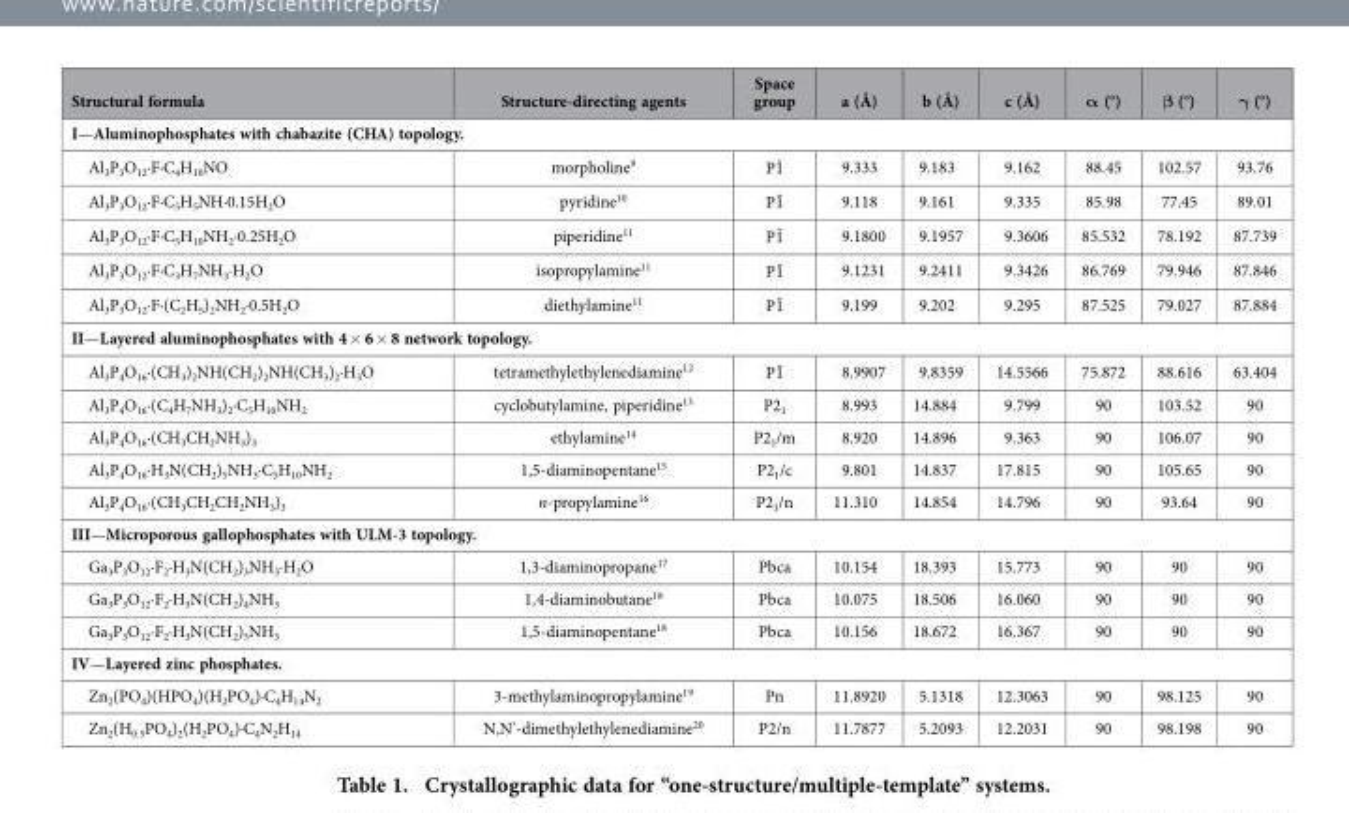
<table><thead><tr><td>Structural formula</td><td>Structure-directing agents</td><td>Space group</td><td>a (Å)</td><td>b (Å)</td><td>c (Å)</td><td>α (°)</td><td>β (°)</td><td>γ (°)</td></tr></thead><tbody><tr><td colspan="9">I—Aluminophosphates with chabazite (CHA) topology.</td></tr><tr><td>Al<sub>3</sub>P<sub>3</sub>O<sub>12</sub>·F·C<sub>4</sub>H<sub>10</sub>NO</td><td>morpholine<sup>9</sup></td><td>P1</td><td>9.333</td><td>9.183</td><td>9.162</td><td>88.45</td><td>102.57</td><td>93.76</td></tr><tr><td>Al<sub>3</sub>P<sub>3</sub>O<sub>12</sub>·F·C<sub>5</sub>H<sub>5</sub>NH·0.15H<sub>2</sub>O</td><td>pyridine<sup>10</sup></td><td>P1</td><td>9.118</td><td>9.161</td><td>9.335</td><td>85.98</td><td>77.45</td><td>89.01</td></tr><tr><td>Al<sub>3</sub>P<sub>3</sub>O<sub>12</sub>·F·C<sub>5</sub>H<sub>10</sub>NH<sub>2</sub>·0.25H<sub>2</sub>O</td><td>piperidine<sup>11</sup></td><td>P1</td><td>9.1800</td><td>9.1957</td><td>9.3606</td><td>85.532</td><td>78.192</td><td>87.739</td></tr><tr><td>Al<sub>3</sub>P<sub>3</sub>O<sub>12</sub>·F·C<sub>3</sub>H<sub>7</sub>NH<sub>3</sub>·H<sub>2</sub>O</td><td>isopropylamine<sup>11</sup></td><td>P1</td><td>9.1231</td><td>9.2411</td><td>9.3426</td><td>86.769</td><td>79.946</td><td>87.846</td></tr><tr><td>Al<sub>3</sub>P<sub>3</sub>O<sub>12</sub>·F·(C<sub>2</sub>H<sub>5</sub>)<sub>2</sub>NH<sub>2</sub>·0.5H<sub>2</sub>O</td><td>diethylamine<sup>11</sup></td><td>P1</td><td>9.199</td><td>9.202</td><td>9.295</td><td>87.525</td><td>79.027</td><td>87.884</td></tr><tr><td colspan="9">II—Layered aluminophosphates with 4 × 6 × 8 network topology.</td></tr><tr><td>Al<sub>3</sub>P<sub>4</sub>O<sub>16</sub>·(CH<sub>3</sub>)<sub>2</sub>NH(CH<sub>2</sub>)<sub>2</sub>NH(CH<sub>3</sub>)<sub>2</sub>·H<sub>3</sub>O</td><td>tetramethylethylenediamine<sup>12</sup></td><td>P1</td><td>8.9907</td><td>9.8359</td><td>14.5566</td><td>75.872</td><td>88.616</td><td>63.404</td></tr><tr><td>Al<sub>3</sub>P<sub>4</sub>O<sub>16</sub>·(C<sub>4</sub>H<sub>7</sub>NH<sub>3</sub>)<sub>2</sub>·C<sub>5</sub>H<sub>10</sub>NH<sub>2</sub></td><td>cyclobutylamine, piperidine<sup>13</sup></td><td>P2<sub>1</sub></td><td>8.993</td><td>14.884</td><td>9.799</td><td>90</td><td>103.52</td><td>90</td></tr><tr><td>Al<sub>3</sub>P<sub>4</sub>O<sub>16</sub>·(CH<sub>3</sub>CH<sub>2</sub>NH<sub>3</sub>)<sub>3</sub></td><td>ethylamine<sup>14</sup></td><td>P2<sub>1</sub>/m</td><td>8.920</td><td>14.896</td><td>9.363</td><td>90</td><td>106.07</td><td>90</td></tr><tr><td>Al<sub>3</sub>P<sub>4</sub>O<sub>16</sub>·H<sub>3</sub>N(CH<sub>2</sub>)<sub>5</sub>NH<sub>3</sub>·C<sub>5</sub>H<sub>10</sub>NH<sub>2</sub></td><td>1,5-diaminopentane<sup>15</sup></td><td>P2<sub>1</sub>/c</td><td>9.801</td><td>14.837</td><td>17.815</td><td>90</td><td>105.65</td><td>90</td></tr><tr><td>Al<sub>3</sub>P<sub>4</sub>O<sub>16</sub>·(CH<sub>3</sub>CH<sub>2</sub>CH<sub>2</sub>NH<sub>3</sub>)<sub>3</sub></td><td>n-propylamine<sup>16</sup></td><td>P2<sub>1</sub>/n</td><td>11.310</td><td>14.854</td><td>14.796</td><td>90</td><td>93.64</td><td>90</td></tr><tr><td colspan="9">III—Microporous gallophosphates with ULM-3 topology.</td></tr><tr><td>Ga<sub>3</sub>P<sub>3</sub>O<sub>12</sub>·F<sub>2</sub>·H<sub>3</sub>N(CH<sub>2</sub>)<sub>3</sub>NH<sub>3</sub>·H<sub>2</sub>O</td><td>1,3-diaminopropane<sup>17</sup></td><td>Pbca</td><td>10.154</td><td>18.393</td><td>15.773</td><td>90</td><td>90</td><td>90</td></tr><tr><td>Ga<sub>3</sub>P<sub>3</sub>O<sub>12</sub>·F<sub>2</sub>·H<sub>3</sub>N(CH<sub>2</sub>)<sub>4</sub>NH<sub>3</sub></td><td>1,4-diaminobutane<sup>18</sup></td><td>Pbca</td><td>10.075</td><td>18.506</td><td>16.060</td><td>90</td><td>90</td><td>90</td></tr><tr><td>Ga<sub>3</sub>P<sub>3</sub>O<sub>12</sub>·F<sub>2</sub>·H<sub>3</sub>N(CH<sub>2</sub>)<sub>5</sub>NH<sub>3</sub></td><td>1,5-diaminopentane<sup>18</sup></td><td>Pbca</td><td>10.156</td><td>18.672</td><td>16.367</td><td>90</td><td>90</td><td>90</td></tr><tr><td colspan="9">IV—Layered zinc phosphates.</td></tr><tr><td>Zn<sub>2</sub>(PO<sub>4</sub>)(HPO<sub>4</sub>)(H<sub>2</sub>PO<sub>4</sub>)·C<sub>4</sub>H<sub>14</sub>N<sub>2</sub></td><td>3-methylaminopropylamine<sup>19</sup></td><td>Pn</td><td>11.8920</td><td>5.1318</td><td>12.3063</td><td>90</td><td>98.125</td><td>90</td></tr><tr><td>Zn<sub>2</sub>(H<sub>0.5</sub>PO<sub>4</sub>)<sub>2</sub>(H<sub>2</sub>PO<sub>4</sub>)·C<sub>4</sub>N<sub>2</sub>H<sub>14</sub></td><td>N,N’-dimethylethylenediamine<sup>20</sup></td><td>P2/n</td><td>11.7877</td><td>5.2093</td><td>12.2031</td><td>90</td><td>98.198</td><td>90</td></tr></tbody></table>